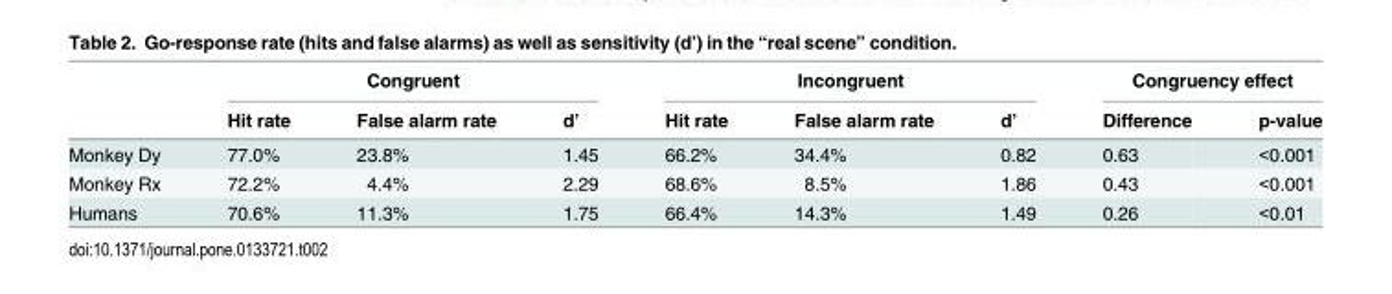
<table><thead><tr><td rowspan="2"></td><td colspan="3">Congruent</td><td colspan="3">Incongruent</td><td colspan="2">Congruency effect</td></tr><tr><td>Hit rate</td><td>False alarm rate</td><td>d’</td><td>Hit rate</td><td>False alarm rate</td><td>d’</td><td>Difference</td><td>p-value</td></tr></thead><tbody><tr><td>Monkey Dy</td><td>77.0%</td><td>23.8%</td><td>1.45</td><td>66.2%</td><td>34.4%</td><td>0.82</td><td>0.63</td><td>&lt;0.001</td></tr><tr><td>Monkey Rx</td><td>72.2%</td><td>4.4%</td><td>2.29</td><td>68.6%</td><td>8.5%</td><td>1.86</td><td>0.43</td><td>&lt;0.001</td></tr><tr><td>Humans</td><td>70.6%</td><td>11.3%</td><td>1.75</td><td>66.4%</td><td>14.3%</td><td>1.49</td><td>0.26</td><td>&lt;0.01</td></tr></tbody></table>